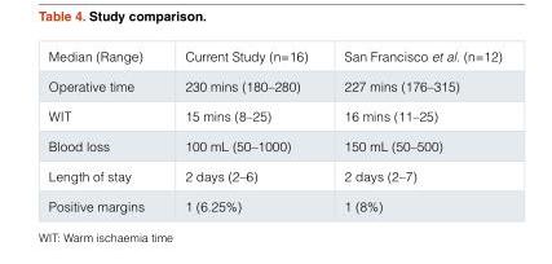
<table><tbody><tr><td>Median (Range)</td><td>Current Study (n=16)</td><td>San Francisco et al. (n=12)</td></tr><tr><td>Operative time</td><td>230 mins (180–280)</td><td>227 mins (176–315)</td></tr><tr><td>WIT</td><td>15 mins (8–25)</td><td>16 mins (11–25)</td></tr><tr><td>Blood loss</td><td>100 mL (50–1000)</td><td>150 mL (50–500)</td></tr><tr><td>Length of stay</td><td>2 days (2–6)</td><td>2 days (2–7)</td></tr><tr><td>Positive margins</td><td>1 (6.25%)</td><td>1 (8%)</td></tr></tbody></table>